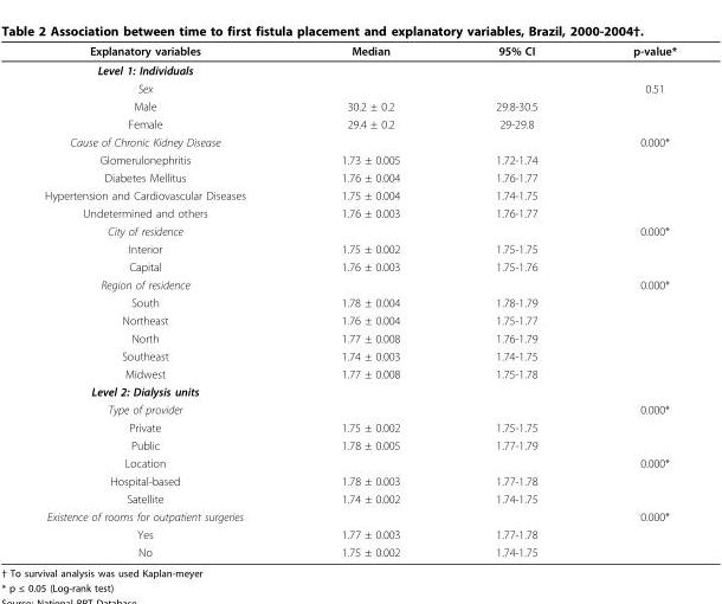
<table><thead><tr><td>Explanatory variables</td><td>Median</td><td>95% CI</td><td>p-value*</td></tr></thead><tbody><tr><td colspan="4">Level 1: Individuals</td></tr><tr><td>Sex</td><td></td><td></td><td>0.51</td></tr><tr><td>Male</td><td>30.2 ± 0.2</td><td>29.8-30.5</td><td></td></tr><tr><td>Female</td><td>29.4 ± 0.2</td><td>29-29.8</td><td></td></tr><tr><td>Cause of Chronic Kidney Disease</td><td></td><td></td><td>0.000*</td></tr><tr><td>Glomerulonephritis</td><td>1.73 ± 0.005</td><td>1.72-1.74</td><td></td></tr><tr><td>Diabetes Mellitus</td><td>1.76 ± 0.004</td><td>1.76-1.77</td><td></td></tr><tr><td>Hypertension and Cardiovascular Diseases</td><td>1.75 ± 0.004</td><td>1.74-1.75</td><td></td></tr><tr><td>Undetermined and others</td><td>1.76 ± 0.003</td><td>1.76-1.77</td><td></td></tr><tr><td>City of residence</td><td></td><td></td><td>0.000*</td></tr><tr><td>Interior</td><td>1.75 ± 0.002</td><td>1.75-1.75</td><td></td></tr><tr><td>Capital</td><td>1.76 ± 0.003</td><td>1.75-1.76</td><td></td></tr><tr><td>Region of residence</td><td></td><td></td><td>0.000*</td></tr><tr><td>South</td><td>1.78 ± 0.004</td><td>1.78-1.79</td><td></td></tr><tr><td>Northeast</td><td>1.76 ± 0.004</td><td>1.75-1.77</td><td></td></tr><tr><td>North</td><td>1.77 ± 0.008</td><td>1.76-1.79</td><td></td></tr><tr><td>Southeast</td><td>1.74 ± 0.003</td><td>1.74-1.75</td><td></td></tr><tr><td>Midwest</td><td>1.77 ± 0.008</td><td>1.75-1.78</td><td></td></tr><tr><td colspan="4">Level 2: Dialysis units</td></tr><tr><td>Type of provider</td><td></td><td></td><td>0.000*</td></tr><tr><td>Private</td><td>1.75 ± 0.002</td><td>1.75-1.75</td><td></td></tr><tr><td>Public</td><td>1.78 ± 0.005</td><td>1.77-1.79</td><td></td></tr><tr><td>Location</td><td></td><td></td><td>0.000*</td></tr><tr><td>Hospital-based</td><td>1.78 ± 0.003</td><td>1.77-1.78</td><td></td></tr><tr><td>Satellite</td><td>1.74 ± 0.002</td><td>1.74-1.75</td><td></td></tr><tr><td>Existence of rooms for outpatient surgeries</td><td></td><td></td><td>0.000*</td></tr><tr><td>Yes</td><td>1.77 ± 0.003</td><td>1.77-1.78</td><td></td></tr><tr><td>No</td><td>1.75 ± 0.002</td><td>1.74-1.75</td><td></td></tr></tbody></table>